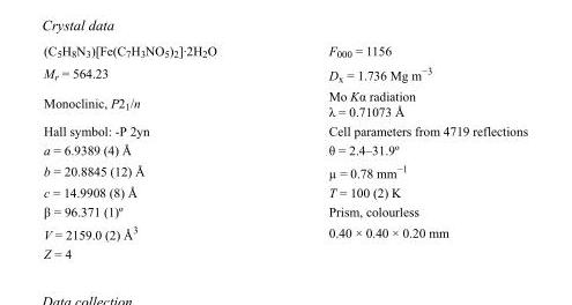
<table><tbody><tr><td>(C<sub>5</sub>H<sub>8</sub>N<sub>3</sub>)[Fe(C<sub>7</sub>H<sub>3</sub>NO<sub>5</sub>)<sub>2</sub>]·2H<sub>2</sub>O</td><td>F000 = 1156</td></tr><tr><td>M<sub>r</sub> = 564.23</td><td>D<sub>x</sub> = 1.736 Mg m<sup>−3</sup></td></tr><tr><td>Monoclinic, P2<sub>1</sub>/n</td><td>Mo Kα radiation λ = 0.71073 Å</td></tr><tr><td>Hall symbol: -P 2yn</td><td>Cell parameters from 4719 reflections</td></tr><tr><td>a = 6.9389 (4) Å</td><td>θ = 2.4–31.9º</td></tr><tr><td>b = 20.8845 (12) Å</td><td>µ = 0.78 mm<sup>−1</sup></td></tr><tr><td>c = 14.9908 (8) Å</td><td>T = 100 (2) K</td></tr><tr><td>β = 96.371 (1)º</td><td>Prism, colourless</td></tr><tr><td>V = 2159.0 (2) Å<sup>3</sup></td><td>0.40 × 0.40 × 0.20 mm</td></tr><tr><td>Z = 4</td><td></td></tr></tbody></table>